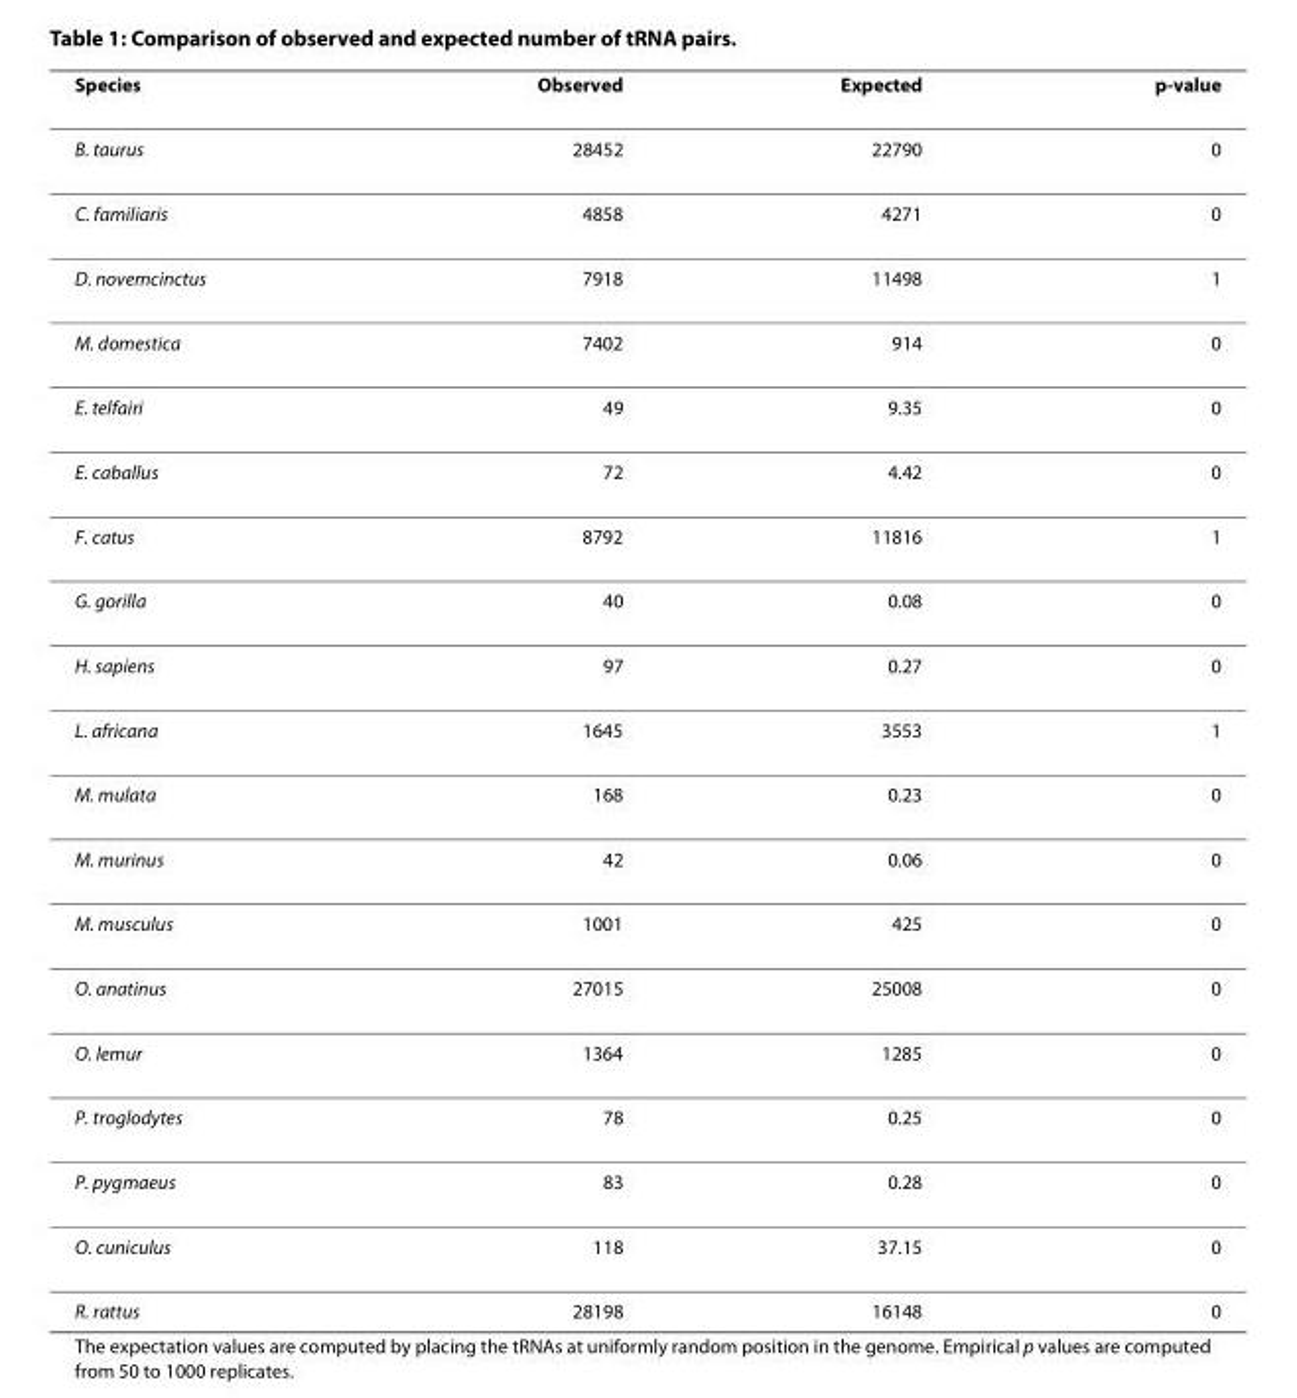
<table><thead><tr><td>Species</td><td>Observed</td><td>Expected</td><td>p-value</td></tr></thead><tbody><tr><td>B. taurus</td><td>28452</td><td>22790</td><td>0</td></tr><tr><td>C. familiaris</td><td>4858</td><td>4271</td><td>0</td></tr><tr><td>D. novemcinctus</td><td>7918</td><td>11498</td><td>1</td></tr><tr><td>M. domestica</td><td>7402</td><td>914</td><td>0</td></tr><tr><td>E. telfairi</td><td>49</td><td>9.35</td><td>0</td></tr><tr><td>E. caballus</td><td>72</td><td>4.42</td><td>0</td></tr><tr><td>F. catus</td><td>8792</td><td>11816</td><td>1</td></tr><tr><td>G. gorilla</td><td>40</td><td>0.08</td><td>0</td></tr><tr><td>H. sapiens</td><td>97</td><td>0.27</td><td>0</td></tr><tr><td>L. africana</td><td>1645</td><td>3553</td><td>1</td></tr><tr><td>M. mulata</td><td>168</td><td>0.23</td><td>0</td></tr><tr><td>M. murinus</td><td>42</td><td>0.06</td><td>0</td></tr><tr><td>M. musculus</td><td>1001</td><td>425</td><td>0</td></tr><tr><td>O. anatinus</td><td>27015</td><td>25008</td><td>0</td></tr><tr><td>O. lemur</td><td>1364</td><td>1285</td><td>0</td></tr><tr><td>P. troglodytes</td><td>78</td><td>0.25</td><td>0</td></tr><tr><td>P. pygmaeus</td><td>83</td><td>0.28</td><td>0</td></tr><tr><td>O. cuniculus</td><td>118</td><td>37.15</td><td>0</td></tr><tr><td>R. rattus</td><td>28198</td><td>16148</td><td>0</td></tr></tbody></table>